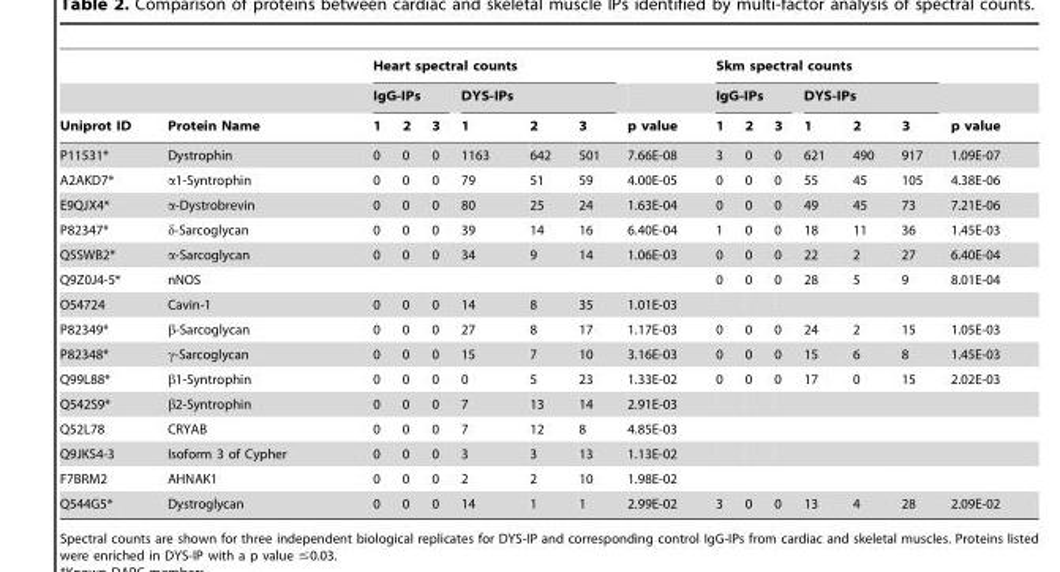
<table><thead><tr><td rowspan="3">Uniprot ID</td><td rowspan="3">Protein Name</td><td colspan="6">Heart spectral counts</td><td rowspan="3">p value</td><td colspan="6">Skm spectral counts</td><td rowspan="3">p value</td></tr><tr><td colspan="3">IgG-IPs</td><td colspan="3">DYS-IPs</td><td colspan="3">IgG-IPs</td><td colspan="3">DYS-IPs</td></tr><tr><td>1</td><td>2</td><td>3</td><td>1</td><td>2</td><td>3</td><td>1</td><td>2</td><td>3</td><td>1</td><td>2</td><td>3</td></tr></thead><tbody><tr><td>P11531*</td><td>Dystrophin</td><td>0</td><td>0</td><td>0</td><td>1163</td><td>642</td><td>501</td><td>7.66E-08</td><td>3</td><td>0</td><td>0</td><td>621</td><td>490</td><td>917</td><td>1.09E-07</td></tr><tr><td>A2AKD7*</td><td>α1-Syntrophin</td><td>0</td><td>0</td><td>0</td><td>79</td><td>51</td><td>59</td><td>4.00E-05</td><td>0</td><td>0</td><td>0</td><td>55</td><td>45</td><td>105</td><td>4.38E-06</td></tr><tr><td>E9QJX4*</td><td>α-Dystrobrevin</td><td>0</td><td>0</td><td>0</td><td>80</td><td>25</td><td>24</td><td>1.63E-04</td><td>0</td><td>0</td><td>0</td><td>49</td><td>45</td><td>73</td><td>7.21E-06</td></tr><tr><td>P82347*</td><td>δ-Sarcoglycan</td><td>0</td><td>0</td><td>0</td><td>39</td><td>14</td><td>16</td><td>6.40E-04</td><td>1</td><td>0</td><td>0</td><td>18</td><td>11</td><td>36</td><td>1.45E-03</td></tr><tr><td>Q5SWB2*</td><td>α-Sarcoglycan</td><td>0</td><td>0</td><td>0</td><td>34</td><td>9</td><td>14</td><td>1.06E-03</td><td>0</td><td>0</td><td>0</td><td>22</td><td>2</td><td>27</td><td>6.40E-04</td></tr><tr><td>Q9Z0J4-5*</td><td>nNOS</td><td></td><td></td><td></td><td></td><td></td><td></td><td></td><td>0</td><td>0</td><td>0</td><td>28</td><td>5</td><td>9</td><td>8.01E-04</td></tr><tr><td>O54724</td><td>Cavin-1</td><td>0</td><td>0</td><td>0</td><td>14</td><td>8</td><td>35</td><td>1.01E-03</td><td></td><td></td><td></td><td></td><td></td><td></td><td></td></tr><tr><td>P82349*</td><td>β-Sarcoglycan</td><td>0</td><td>0</td><td>0</td><td>27</td><td>8</td><td>17</td><td>1.17E-03</td><td>0</td><td>0</td><td>0</td><td>24</td><td>2</td><td>15</td><td>1.05E-03</td></tr><tr><td>P82348*</td><td>γ-Sarcoglycan</td><td>0</td><td>0</td><td>0</td><td>15</td><td>7</td><td>10</td><td>3.16E-03</td><td>0</td><td>0</td><td>0</td><td>15</td><td>6</td><td>8</td><td>1.45E-03</td></tr><tr><td>Q99L88*</td><td>β1-Syntrophin</td><td>0</td><td>0</td><td>0</td><td>0</td><td>5</td><td>23</td><td>1.33E-02</td><td>0</td><td>0</td><td>0</td><td>17</td><td>0</td><td>15</td><td>2.02E-03</td></tr><tr><td>Q542S9*</td><td>β2-Syntrophin</td><td>0</td><td>0</td><td>0</td><td>7</td><td>13</td><td>14</td><td>2.91E-03</td><td></td><td></td><td></td><td></td><td></td><td></td><td></td></tr><tr><td>Q52L78</td><td>CRYAB</td><td>0</td><td>0</td><td>0</td><td>7</td><td>12</td><td>8</td><td>4.85E-03</td><td></td><td></td><td></td><td></td><td></td><td></td><td></td></tr><tr><td>Q9JKS4-3</td><td>Isoform 3 of Cypher</td><td>0</td><td>0</td><td>0</td><td>3</td><td>3</td><td>13</td><td>1.13E-02</td><td></td><td></td><td></td><td></td><td></td><td></td><td></td></tr><tr><td>F7BRM2</td><td>AHNAK1</td><td>0</td><td>0</td><td>0</td><td>2</td><td>2</td><td>10</td><td>1.98E-02</td><td></td><td></td><td></td><td></td><td></td><td></td><td></td></tr><tr><td>Q544G5*</td><td>Dystroglycan</td><td>0</td><td>0</td><td>0</td><td>14</td><td>1</td><td>1</td><td>2.99E-02</td><td>3</td><td>0</td><td>0</td><td>13</td><td>4</td><td>28</td><td>2.09E-02</td></tr></tbody></table>